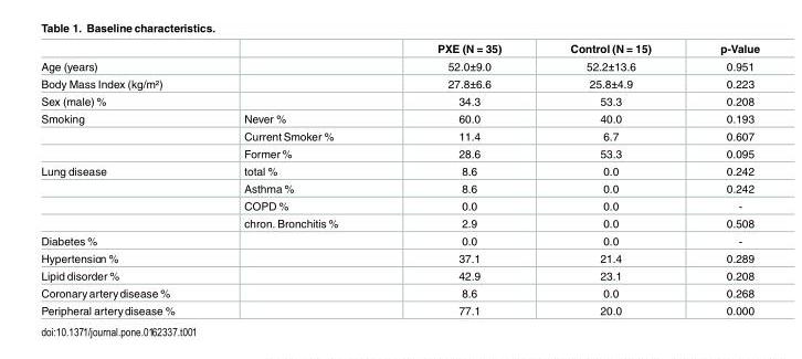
<table><thead><tr><td></td><td></td><td>PXE (N = 35)</td><td>Control (N = 15)</td><td>p-Value</td></tr></thead><tbody><tr><td>Age (years)</td><td></td><td>52.0±9.0</td><td>52.2±13.6</td><td>0.951</td></tr><tr><td>Body Mass Index (kg/m²)</td><td></td><td>27.8±6.6</td><td>25.8±4.9</td><td>0.223</td></tr><tr><td>Sex (male) %</td><td></td><td>34.3</td><td>53.3</td><td>0.208</td></tr><tr><td rowspan="3">Smoking</td><td>Never %</td><td>60.0</td><td>40.0</td><td>0.193</td></tr><tr><td>Current Smoker %</td><td>11.4</td><td>6.7</td><td>0.607</td></tr><tr><td>Former %</td><td>28.6</td><td>53.3</td><td>0.095</td></tr><tr><td rowspan="4">Lung disease</td><td>total %</td><td>8.6</td><td>0.0</td><td>0.242</td></tr><tr><td>Asthma %</td><td>8.6</td><td>0.0</td><td>0.242</td></tr><tr><td>COPD %</td><td>0.0</td><td>0.0</td><td>-</td></tr><tr><td>chron. Bronchitis %</td><td>2.9</td><td>0.0</td><td>0.508</td></tr><tr><td>Diabetes %</td><td></td><td>0.0</td><td>0.0</td><td>-</td></tr><tr><td>Hypertension %</td><td></td><td>37.1</td><td>21.4</td><td>0.289</td></tr><tr><td>Lipid disorder %</td><td></td><td>42.9</td><td>23.1</td><td>0.208</td></tr><tr><td>Coronaryarterydisease %</td><td></td><td>8.6</td><td>0.0</td><td>0.268</td></tr><tr><td>Peripheral arterydisease %</td><td></td><td>77.1</td><td>20.0</td><td>0.000</td></tr></tbody></table>